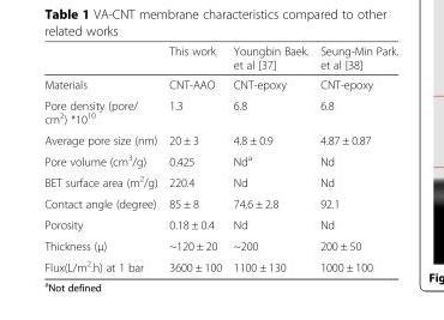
<table><thead><tr><td></td><td>This work</td><td>Youngbin Baek. et al [37]</td><td>Seung-Min Park. et al [38]</td></tr></thead><tbody><tr><td>Materials</td><td>CNT-AAO</td><td>CNT-epoxy</td><td>CNT-epoxy</td></tr><tr><td>Pore density (pore/ cm<sup>2</sup>) *10<sup>10</sup></td><td>1.3</td><td>6.8</td><td>6.8</td></tr><tr><td>Average pore size (nm)</td><td>20 ± 3</td><td>4.8 ± 0.9</td><td>4.87 ± 0.87</td></tr><tr><td>Pore volume (cm<sup>3</sup>/g)</td><td>0.425</td><td>Nd<sup>a</sup></td><td>Nd</td></tr><tr><td>BET surface area (m<sup>2</sup>/g)</td><td>220.4</td><td>Nd</td><td>Nd</td></tr><tr><td>Contact angle (degree)</td><td>85 ± 8</td><td>74.6 ± 2.8</td><td>92.1</td></tr><tr><td>Porosity</td><td>0.18 ± 0.4</td><td>Nd</td><td>Nd</td></tr><tr><td>Thickness (μ)</td><td>~120 ± 20</td><td>~200</td><td>200 ± 50</td></tr><tr><td>Flux(L/m<sup>2</sup>.h) at 1 bar</td><td>3600 ± 100</td><td>1100 ± 130</td><td>1000 ± 100</td></tr></tbody></table>